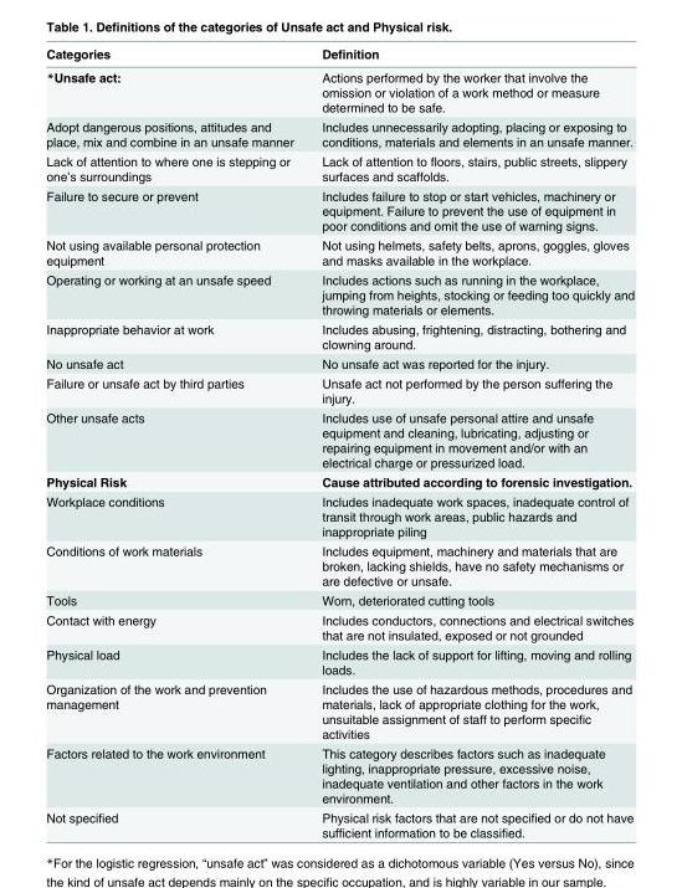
<table><thead><tr><td>Categories</td><td>Definition</td></tr></thead><tbody><tr><td>*Unsafe act:</td><td>Actions performed by the worker that involve the omission or violation of a work method or measure determined to be safe.</td></tr><tr><td>Adopt dangerous positions, attitudes and place, mix and combine in an unsafe manner</td><td>Includes unnecessarily adopting, placing or exposing to conditions, materials and elements in an unsafe manner.</td></tr><tr><td>Lack of attention to where one is stepping or one’s surroundings</td><td>Lack of attention to floors, stairs, public streets, slippery surfaces and scaffolds.</td></tr><tr><td>Failure to secure or prevent</td><td>Includes failure to stop or start vehicles, machinery or equipment. Failure to prevent the use of equipment in poor conditions and omit the use of warning signs.</td></tr><tr><td>Not using available personal protection equipment</td><td>Not using helmets, safety belts, aprons, goggles, gloves and masks available in the workplace.</td></tr><tr><td>Operating or working at an unsafe speed</td><td>Includes actions such as running in the workplace, jumping from heights, stocking or feeding too quickly and throwing materials or elements.</td></tr><tr><td>Inappropriate behavior at work</td><td>Includes abusing, frightening, distracting, bothering and clowning around.</td></tr><tr><td>No unsafe act</td><td>No unsafe act was reported for the injury.</td></tr><tr><td>Failure or unsafe act by third parties</td><td>Unsafe act not performed by the person suffering the injury.</td></tr><tr><td>Other unsafe acts</td><td>Includes use of unsafe personal attire and unsafe equipment and cleaning, lubricating, adjusting or repairing equipment in movement and/or with an electrical charge or pressurized load.</td></tr><tr><td>Physical Risk</td><td>Cause attributed according to forensic investigation.</td></tr><tr><td>Workplace conditions</td><td>Includes inadequate work spaces, inadequate control of transit through work areas, public hazards and inappropriate piling</td></tr><tr><td>Conditions of work materials</td><td>Includes equipment, machinery and materials that are broken, lacking shields, have no safety mechanisms or are defective or unsafe.</td></tr><tr><td>Tools</td><td>Worn, deteriorated cutting tools</td></tr><tr><td>Contact with energy</td><td>Includes conductors, connections and electrical switches that are not insulated, exposed or not grounded</td></tr><tr><td>Physical load</td><td>Includes the lack of support for lifting, moving and rolling loads.</td></tr><tr><td>Organization of the work and prevention management</td><td>Includes the use of hazardous methods, procedures and materials, lack of appropriate clothing for the work, unsuitable assignment of staff to perform specific activities</td></tr><tr><td>Factors related to the work environment</td><td>This category describes factors such as inadequate lighting, inappropriate pressure, excessive noise, inadequate ventilation and other factors in the work environment.</td></tr><tr><td>Not specified</td><td>Physical risk factors that are not specified or do not have sufficient information to be classified.</td></tr></tbody></table>